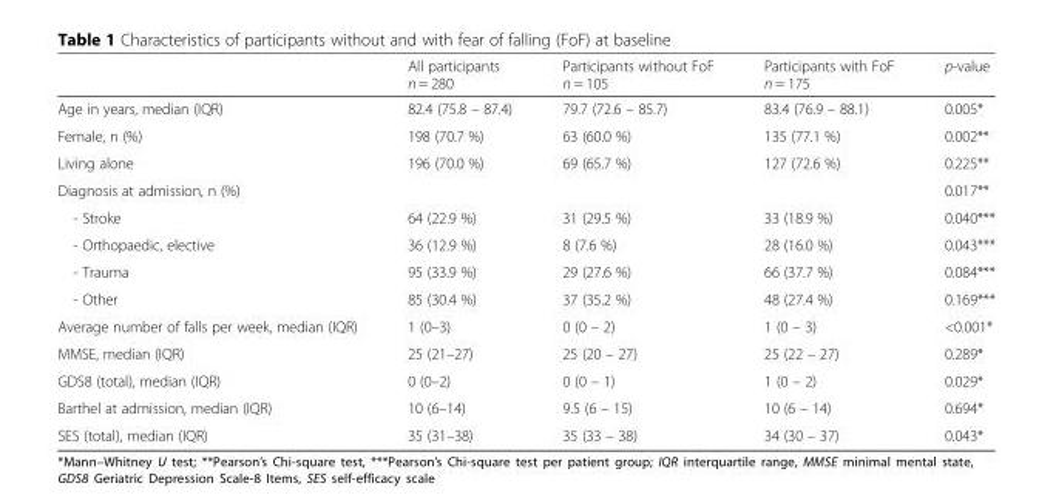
<table><thead><tr><td></td><td>All participants n = 280</td><td>Participants without FoF n = 105</td><td>Participants with FoF n = 175</td><td>p-value</td></tr></thead><tbody><tr><td>Age in years, median (IQR)</td><td>82.4 (75.8 – 87.4)</td><td>79.7 (72.6 – 85.7)</td><td>83.4 (76.9 – 88.1)</td><td>0.005*</td></tr><tr><td>Female, n (%)</td><td>198 (70.7 %)</td><td>63 (60.0 %)</td><td>135 (77.1 %)</td><td>0.002**</td></tr><tr><td>Living alone</td><td>196 (70.0 %)</td><td>69 (65.7 %)</td><td>127 (72.6 %)</td><td>0.225**</td></tr><tr><td>Diagnosis at admission, n (%)</td><td></td><td></td><td></td><td>0.017**</td></tr><tr><td>- Stroke</td><td>64 (22.9 %)</td><td>31 (29.5 %)</td><td>33 (18.9 %)</td><td>0.040***</td></tr><tr><td>- Orthopaedic, elective</td><td>36 (12.9 %)</td><td>8 (7.6 %)</td><td>28 (16.0 %)</td><td>0.043***</td></tr><tr><td>- Trauma</td><td>95 (33.9 %)</td><td>29 (27.6 %)</td><td>66 (37.7 %)</td><td>0.084***</td></tr><tr><td>- Other</td><td>85 (30.4 %)</td><td>37 (35.2 %)</td><td>48 (27.4 %)</td><td>0.169***</td></tr><tr><td>Average number of falls per week, median (IQR)</td><td>1 (0–3)</td><td>0 (0 – 2)</td><td>1 (0 – 3)</td><td>&lt;0.001*</td></tr><tr><td>MMSE, median (IQR)</td><td>25 (21–27)</td><td>25 (20 – 27)</td><td>25 (22 – 27)</td><td>0.289*</td></tr><tr><td>GDS8 (total), median (IQR)</td><td>0 (0–2)</td><td>0 (0 – 1)</td><td>1 (0 – 2)</td><td>0.029*</td></tr><tr><td>Barthel at admission, median (IQR)</td><td>10 (6–14)</td><td>9.5 (6 – 15)</td><td>10 (6 – 14)</td><td>0.694*</td></tr><tr><td>SES (total), median (IQR)</td><td>35 (31–38)</td><td>35 (33 – 38)</td><td>34 (30 – 37)</td><td>0.043*</td></tr></tbody></table>